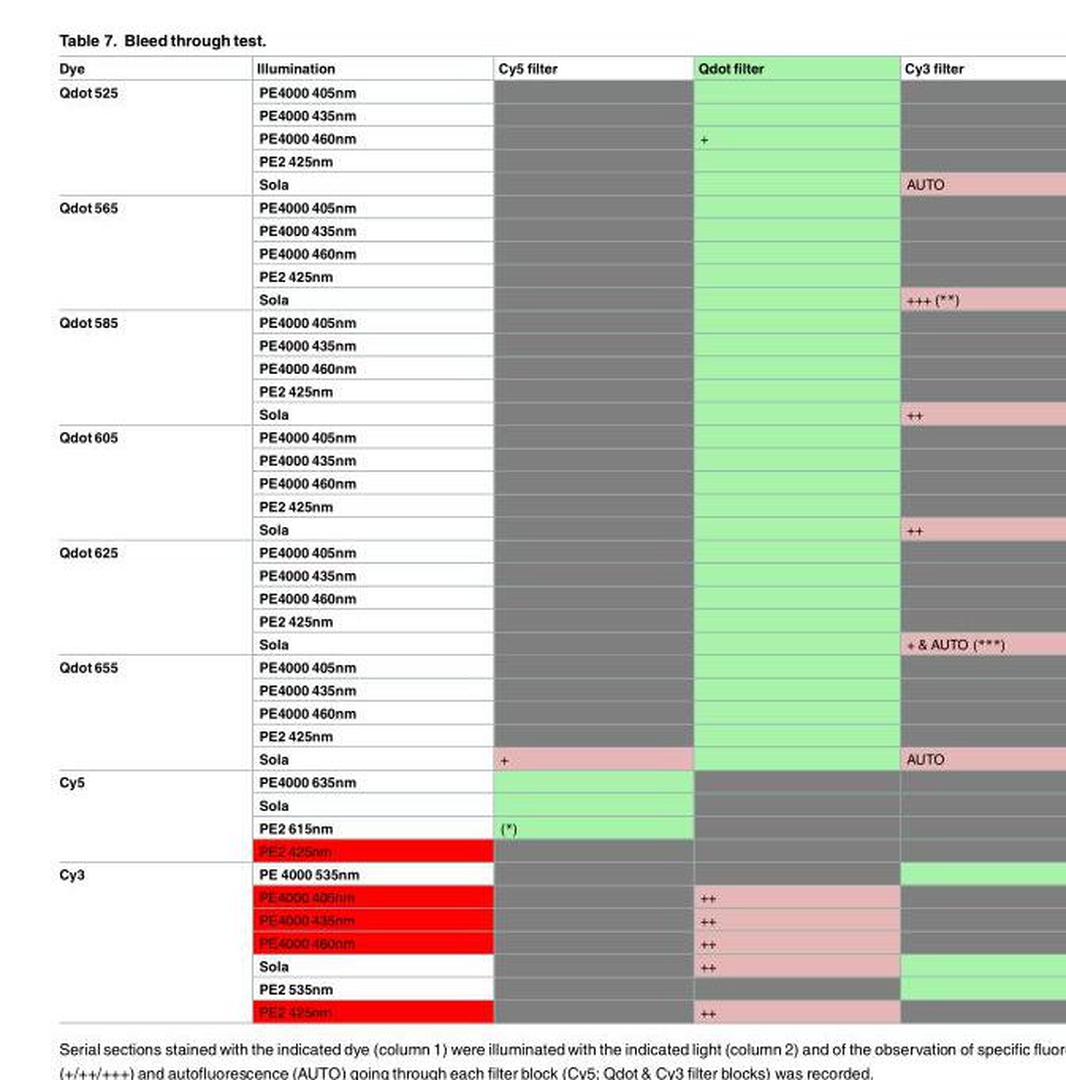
<table><thead><tr><td>Dye</td><td>Illumination</td><td>Cy5 filter</td><td>Qdot filter</td><td>Cy3 filter</td></tr></thead><tbody><tr><td rowspan="5">Qdot 525</td><td>PE4000 405nm</td><td></td><td></td><td></td></tr><tr><td>PE4000 435nm</td><td></td><td></td><td></td></tr><tr><td>PE4000 460nm</td><td></td><td>+</td><td></td></tr><tr><td>PE2 425nm</td><td></td><td></td><td></td></tr><tr><td>Sola</td><td></td><td></td><td>AUTO</td></tr><tr><td rowspan="5">Qdot 565</td><td>PE4000 405nm</td><td></td><td></td><td></td></tr><tr><td>PE4000 435nm</td><td></td><td></td><td></td></tr><tr><td>PE4000 460nm</td><td></td><td></td><td></td></tr><tr><td>PE2 425nm</td><td></td><td></td><td></td></tr><tr><td>Sola</td><td></td><td></td><td>+++ (**)</td></tr><tr><td rowspan="5">Qdot 585</td><td>PE4000 405nm</td><td></td><td></td><td></td></tr><tr><td>PE4000 435nm</td><td></td><td></td><td></td></tr><tr><td>PE4000 460nm</td><td></td><td></td><td></td></tr><tr><td>PE2 425nm</td><td></td><td></td><td></td></tr><tr><td>Sola</td><td></td><td></td><td>++</td></tr><tr><td rowspan="5">Qdot 605</td><td>PE4000 405nm</td><td></td><td></td><td></td></tr><tr><td>PE4000 435nm</td><td></td><td></td><td></td></tr><tr><td>PE4000 460nm</td><td></td><td></td><td></td></tr><tr><td>PE2 425nm</td><td></td><td></td><td></td></tr><tr><td>Sola</td><td></td><td></td><td>++</td></tr><tr><td rowspan="5">Qdot 625</td><td>PE4000 405nm</td><td></td><td></td><td></td></tr><tr><td>PE4000 435nm</td><td></td><td></td><td></td></tr><tr><td>PE4000 460nm</td><td></td><td></td><td></td></tr><tr><td>PE2 425nm</td><td></td><td></td><td></td></tr><tr><td>Sola</td><td></td><td></td><td>+ &amp; AUTO (***)</td></tr><tr><td rowspan="5">Qdot 655</td><td>PE4000 405nm</td><td></td><td></td><td></td></tr><tr><td>PE4000 435nm</td><td></td><td></td><td></td></tr><tr><td>PE4000 460nm</td><td></td><td></td><td></td></tr><tr><td>PE2 425nm</td><td></td><td></td><td></td></tr><tr><td>Sola</td><td>+</td><td></td><td>AUTO</td></tr><tr><td rowspan="4">Cy5</td><td>PE4000 635nm</td><td></td><td></td><td></td></tr><tr><td>Sola</td><td></td><td></td><td></td></tr><tr><td>PE2 615nm</td><td>(*)</td><td></td><td></td></tr><tr><td>PE2 425nm</td><td></td><td></td><td></td></tr><tr><td rowspan="7">Cy3</td><td>PE 4000 535nm</td><td></td><td></td><td></td></tr><tr><td>PE4000 405nm</td><td></td><td>++</td><td></td></tr><tr><td>PE4000 435nm</td><td></td><td>++</td><td></td></tr><tr><td>PE4000 460nm</td><td></td><td>++</td><td></td></tr><tr><td>Sola</td><td></td><td>++</td><td></td></tr><tr><td>PE2 535nm</td><td></td><td></td><td></td></tr><tr><td>PE2 425nm</td><td></td><td>++</td><td></td></tr></tbody></table>